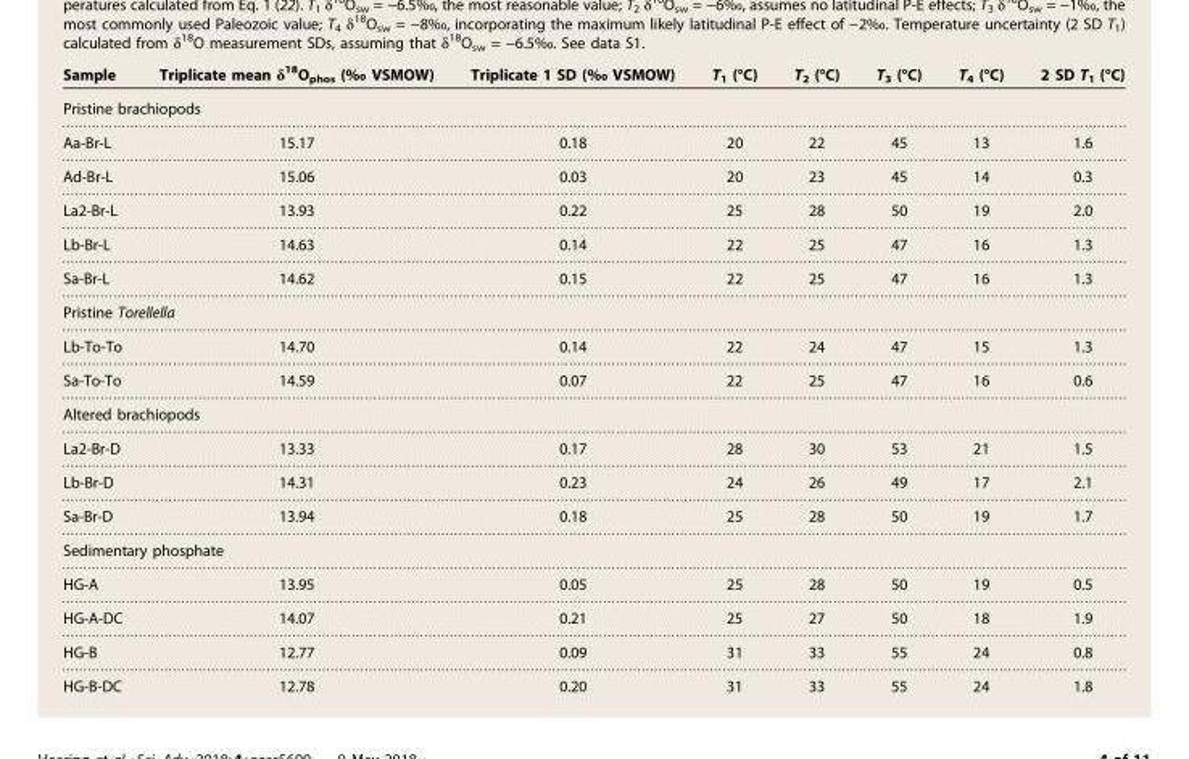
<table><thead><tr><td>Sample</td><td>Triplicate mean δ<sup>18</sup>O<sub>phos</sub> (‰ VSMOW)</td><td>Triplicate 1 SD (‰ VSMOW)</td><td>T<sub>1</sub> (°C)</td><td>T<sub>2</sub> (°C)</td><td>T<sub>3</sub> (°C)</td><td>T<sub>4</sub> (°C)</td><td>2 SD T<sub>1</sub> (°C)</td></tr></thead><tbody><tr><td colspan="8">Pristine brachiopods</td></tr><tr><td>Aa-Br-L</td><td>15.17</td><td>0.18</td><td>20</td><td>22</td><td>45</td><td>13</td><td>1.6</td></tr><tr><td>Ad-Br-L</td><td>15.06</td><td>0.03</td><td>20</td><td>23</td><td>45</td><td>14</td><td>0.3</td></tr><tr><td>La2-Br-L</td><td>13.93</td><td>0.22</td><td>25</td><td>28</td><td>50</td><td>19</td><td>2.0</td></tr><tr><td>Lb-Br-L</td><td>14.63</td><td>0.14</td><td>22</td><td>25</td><td>47</td><td>16</td><td>1.3</td></tr><tr><td>Sa-Br-L</td><td>14.62</td><td>0.15</td><td>22</td><td>25</td><td>47</td><td>16</td><td>1.3</td></tr><tr><td colspan="8">Pristine Torellella</td></tr><tr><td>Lb-To-To</td><td>14.70</td><td>0.14</td><td>22</td><td>24</td><td>47</td><td>15</td><td>1.3</td></tr><tr><td>Sa-To-To</td><td>14.59</td><td>0.07</td><td>22</td><td>25</td><td>47</td><td>16</td><td>0.6</td></tr><tr><td colspan="8">Altered brachiopods</td></tr><tr><td>La2-Br-D</td><td>13.33</td><td>0.17</td><td>28</td><td>30</td><td>53</td><td>21</td><td>1.5</td></tr><tr><td>Lb-Br-D</td><td>14.31</td><td>0.23</td><td>24</td><td>26</td><td>49</td><td>17</td><td>2.1</td></tr><tr><td>Sa-Br-D</td><td>13.94</td><td>0.18</td><td>25</td><td>28</td><td>50</td><td>19</td><td>1.7</td></tr><tr><td colspan="8">Sedimentary phosphate</td></tr><tr><td>HG-A</td><td>13.95</td><td>0.05</td><td>25</td><td>28</td><td>50</td><td>19</td><td>0.5</td></tr><tr><td>HG-A-DC</td><td>14.07</td><td>0.21</td><td>25</td><td>27</td><td>50</td><td>18</td><td>1.9</td></tr><tr><td>HG-B</td><td>12.77</td><td>0.09</td><td>31</td><td>33</td><td>55</td><td>24</td><td>0.8</td></tr><tr><td>HG-B-DC</td><td>12.78</td><td>0.20</td><td>31</td><td>33</td><td>55</td><td>24</td><td>1.8</td></tr></tbody></table>